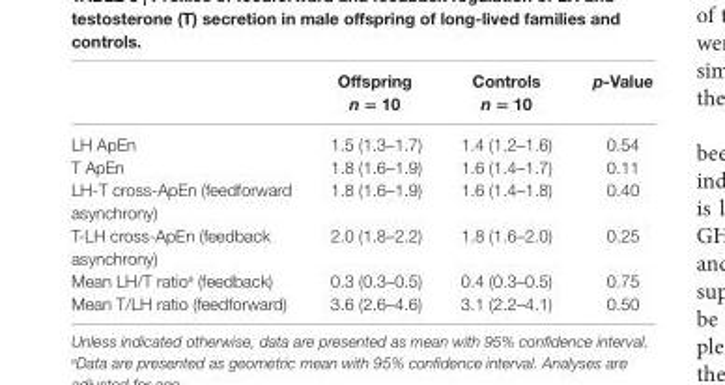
<table><thead><tr><td></td><td>Offspring n = 10</td><td>controls n = 10</td><td>p-Value</td></tr></thead><tbody><tr><td>LH ApEn</td><td>1.5 (1.3–1.7)</td><td>1.4 (1.2–1.6)</td><td>0.54</td></tr><tr><td>T ApEn</td><td>1.8 (1.6–1.9)</td><td>1.6 (1.4–1.7)</td><td>0.11</td></tr><tr><td>LH-T cross-ApEn (feedforward asynchrony)</td><td>1.8 (1.6–1.9)</td><td>1.6 (1.4–1.8)</td><td>0.40</td></tr><tr><td>T-LH cross-ApEn (feedback asynchrony)</td><td>2.0 (1.8–2.2)</td><td>1.8 (1.6–2.0)</td><td>0.25</td></tr><tr><td>Mean LH/T ratio<sup>a</sup> (feedback)</td><td>0.3 (0.3–0.5)</td><td>0.4 (0.3–0.5)</td><td>0.75</td></tr><tr><td>Mean T/LH ratio (feedforward)</td><td>3.6 (2.6–4.6)</td><td>3.1 (2.2–4.1)</td><td>0.50</td></tr></tbody></table>